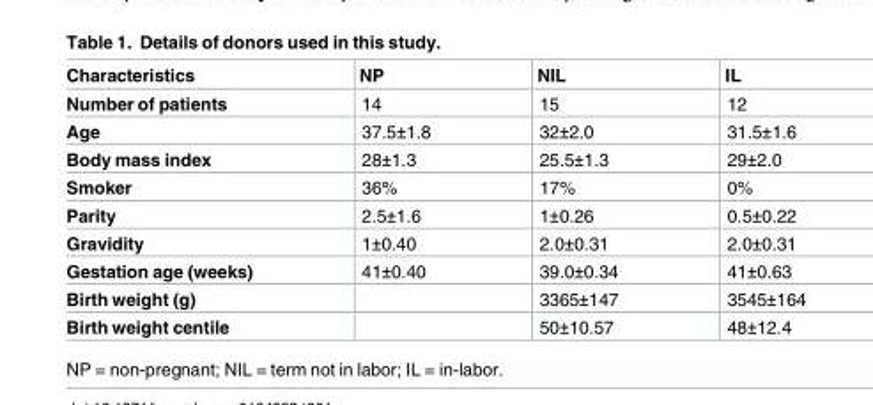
<table><thead><tr><td>Characteristics</td><td>NP</td><td>NIL</td><td>IL</td></tr></thead><tbody><tr><td>Number of patients</td><td>14</td><td>15</td><td>12</td></tr><tr><td>Age</td><td>37.5±1.8</td><td>32±2.0</td><td>31.5±1.6</td></tr><tr><td>Body mass index</td><td>28±1.3</td><td>25.5±1.3</td><td>29±2.0</td></tr><tr><td>Smoker</td><td>36%</td><td>17%</td><td>0%</td></tr><tr><td>Parity</td><td>2.5±1.6</td><td>1±0.26</td><td>0.5±0.22</td></tr><tr><td>Gravidity</td><td>1±0.40</td><td>2.0±0.31</td><td>2.0±0.31</td></tr><tr><td>Gestation age (weeks)</td><td>41±0.40</td><td>39.0±0.34</td><td>41±0.63</td></tr><tr><td>Birth weight (g)</td><td></td><td>3365±147</td><td>3545±164</td></tr><tr><td>Birth weight centile</td><td></td><td>50±10.57</td><td>48±12.4</td></tr></tbody></table>